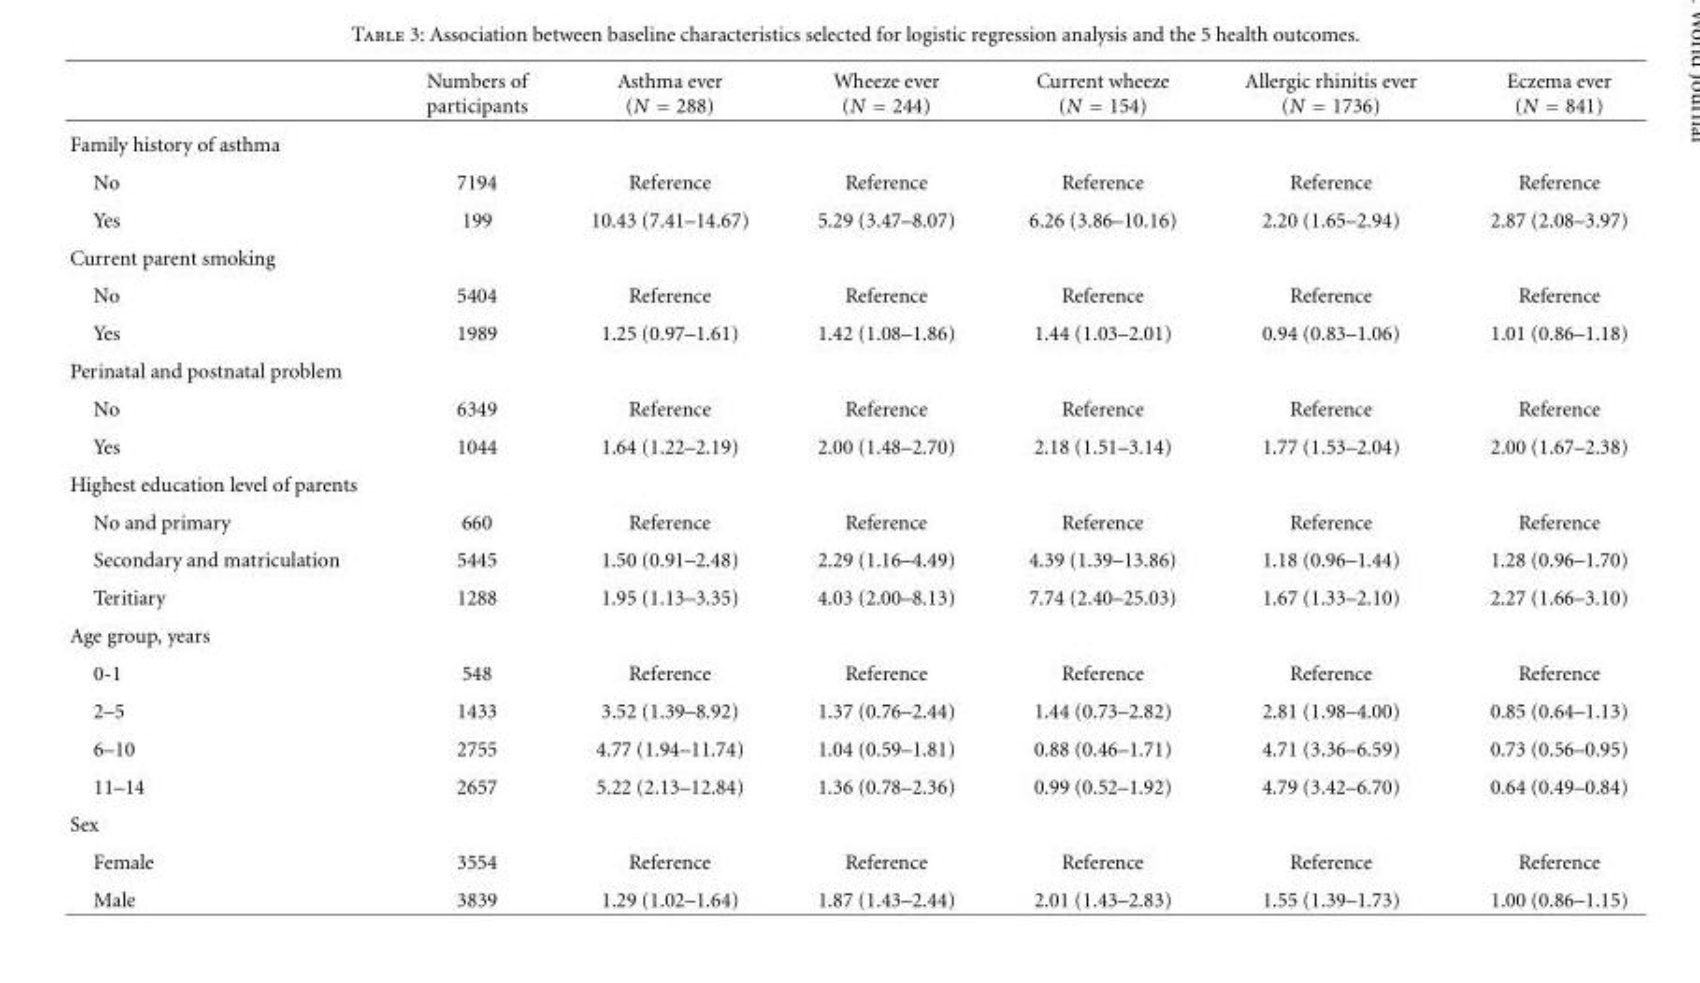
<table><thead><tr><td></td><td>Numbers of participants</td><td>Asthma ever (N = 288)</td><td>Wheeze ever (N = 244)</td><td>Current wheeze (N = 154)</td><td>Allergic rhinitis ever (N = 1736)</td><td>Eczema ever (N = 841)</td></tr></thead><tbody><tr><td colspan="7">Family history of asthma</td></tr><tr><td>No</td><td>7194</td><td>Reference</td><td>Reference</td><td>Reference</td><td>Reference</td><td>Reference</td></tr><tr><td>Yes</td><td>199</td><td>10.43 (7.41–14.67)</td><td>5.29 (3.47–8.07)</td><td>6.26 (3.86–10.16)</td><td>2.20 (1.65–2.94)</td><td>2.87 (2.08–3.97)</td></tr><tr><td colspan="7">Current parent smoking</td></tr><tr><td>No</td><td>5404</td><td>Reference</td><td>Reference</td><td>Reference</td><td>Reference</td><td>Reference</td></tr><tr><td>Yes</td><td>1989</td><td>1.25 (0.97–1.61)</td><td>1.42 (1.08–1.86)</td><td>1.44 (1.03–2.01)</td><td>0.94 (0.83–1.06)</td><td>1.01 (0.86–1.18)</td></tr><tr><td colspan="7">Perinatal and postnatal problem</td></tr><tr><td>No</td><td>6349</td><td>Reference</td><td>Reference</td><td>Reference</td><td>Reference</td><td>Reference</td></tr><tr><td>Yes</td><td>1044</td><td>1.64 (1.22–2.19)</td><td>2.00 (1.48–2.70)</td><td>2.18 (1.51–3.14)</td><td>1.77 (1.53–2.04)</td><td>2.00 (1.67–2.38)</td></tr><tr><td colspan="7">Highest education level of parents</td></tr><tr><td>No and primary</td><td>660</td><td>Reference</td><td>Reference</td><td>Reference</td><td>Reference</td><td>Reference</td></tr><tr><td>Secondary and matriculation</td><td>5445</td><td>1.50 (0.91–2.48)</td><td>2.29 (1.16–4.49)</td><td>4.39 (1.39–13.86)</td><td>1.18 (0.96–1.44)</td><td>1.28 (0.96–1.70)</td></tr><tr><td>Teritiary</td><td>1288</td><td>1.95 (1.13–3.35)</td><td>4.03 (2.00–8.13)</td><td>7.74 (2.40–25.03)</td><td>1.67 (1.33–2.10)</td><td>2.27 (1.66–3.10)</td></tr><tr><td colspan="7">Age group, years</td></tr><tr><td>0-1</td><td>548</td><td>Reference</td><td>Reference</td><td>Reference</td><td>Reference</td><td>Reference</td></tr><tr><td>2–5</td><td>1433</td><td>3.52 (1.39–8.92)</td><td>1.37 (0.76–2.44)</td><td>1.44 (0.73–2.82)</td><td>2.81 (1.98–4.00)</td><td>0.85 (0.64–1.13)</td></tr><tr><td>6–10</td><td>2755</td><td>4.77 (1.94–11.74)</td><td>1.04 (0.59–1.81)</td><td>0.88 (0.46–1.71)</td><td>4.71 (3.36–6.59)</td><td>0.73 (0.56–0.95)</td></tr><tr><td>11–14</td><td>2657</td><td>5.22 (2.13–12.84)</td><td>1.36 (0.78–2.36)</td><td>0.99 (0.52–1.92)</td><td>4.79 (3.42–6.70)</td><td>0.64 (0.49–0.84)</td></tr><tr><td colspan="7">Sex</td></tr><tr><td>Female</td><td>3554</td><td>Reference</td><td>Reference</td><td>Reference</td><td>Reference</td><td>Reference</td></tr><tr><td>Male</td><td>3839</td><td>1.29 (1.02–1.64)</td><td>1.87 (1.43–2.44)</td><td>2.01 (1.43–2.83)</td><td>1.55 (1.39–1.73)</td><td>1.00 (0.86–1.15)</td></tr></tbody></table>